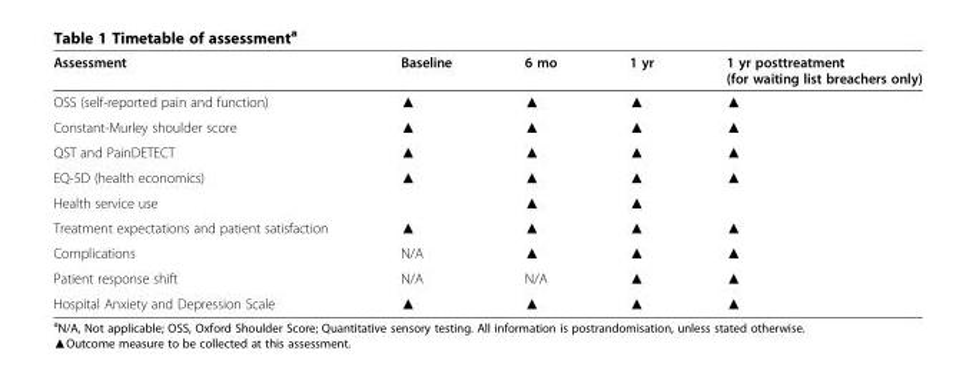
<table><thead><tr><td>Assessment</td><td>Baseline</td><td>6 mo</td><td>1 yr</td><td>1 yr posttreatment (for waiting list breachers only)</td></tr></thead><tbody><tr><td>OSS (self-reported pain and function)</td><td>▲</td><td>▲</td><td>▲</td><td>▲</td></tr><tr><td>Constant-Murley shoulder score</td><td>▲</td><td>▲</td><td>▲</td><td>▲</td></tr><tr><td>QST and PainDETECT</td><td>▲</td><td>▲</td><td>▲</td><td>▲</td></tr><tr><td>EQ-5D (health economics)</td><td>▲</td><td>▲</td><td>▲</td><td>▲</td></tr><tr><td>Health service use</td><td></td><td>▲</td><td>▲</td><td></td></tr><tr><td>Treatment expectations and patient satisfaction</td><td>▲</td><td>▲</td><td>▲</td><td>▲</td></tr><tr><td>Complications</td><td>N/A</td><td>▲</td><td>▲</td><td>▲</td></tr><tr><td>Patient response shift</td><td>N/A</td><td>N/A</td><td>▲</td><td>▲</td></tr><tr><td>Hospital Anxiety and Depression Scale</td><td>▲</td><td>▲</td><td>▲</td><td>▲</td></tr></tbody></table>